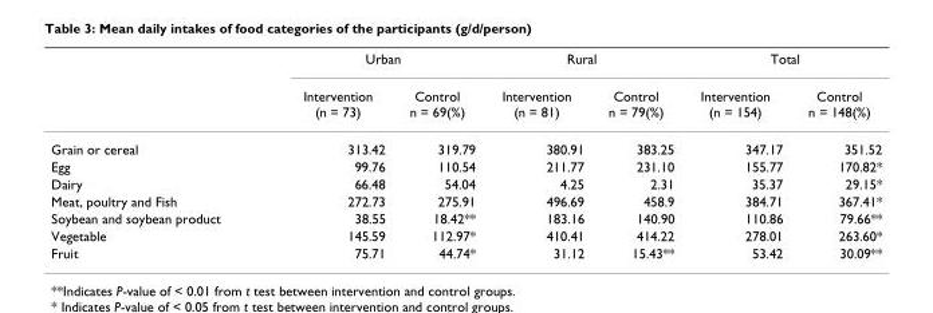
<table><thead><tr><td rowspan="2"></td><td colspan="2">Urban</td><td colspan="2">Rural</td><td colspan="2">Total</td></tr><tr><td>Intervention (n = 73)</td><td>Control n = 69(%)</td><td>Intervention (n = 81)</td><td>Control n = 79(%)</td><td>Intervention (n = 154)</td><td>Control n = 148(%)</td></tr></thead><tbody><tr><td>Grain or cereal</td><td>313.42</td><td>319.79</td><td>380.91</td><td>383.25</td><td>347.17</td><td>351.52</td></tr><tr><td>Egg</td><td>99.76</td><td>110.54</td><td>211.77</td><td>231.10</td><td>155.77</td><td>170.82*</td></tr><tr><td>Dairy</td><td>66.48</td><td>54.04</td><td>4.25</td><td>2.31</td><td>35.37</td><td>29.15*</td></tr><tr><td>Meat, poultry and Fish</td><td>272.73</td><td>275.91</td><td>496.69</td><td>458.9</td><td>384.71</td><td>367.41*</td></tr><tr><td>Soybean and soybean product</td><td>38.55</td><td>18.42**</td><td>183.16</td><td>140.90</td><td>110.86</td><td>79.66**</td></tr><tr><td>Vegetable</td><td>145.59</td><td>112.97*</td><td>410.41</td><td>414.22</td><td>278.01</td><td>263.60*</td></tr><tr><td>Fruit</td><td>75.71</td><td>44.74*</td><td>31.12</td><td>15.43**</td><td>53.42</td><td>30.09**</td></tr></tbody></table>